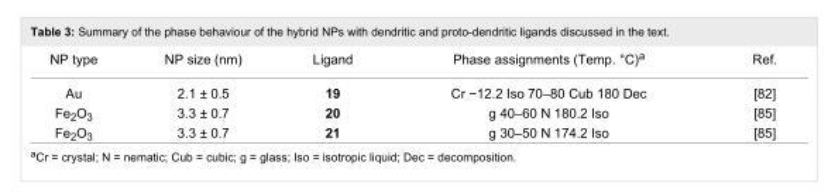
<table><tbody><tr><td>NP type</td><td>NP size (nm)</td><td>Ligand</td><td>Phase assignments (Temp. °C)<sup>a</sup></td><td>Ref.</td></tr><tr><td>Au</td><td>2.1 ± 0.5</td><td>19</td><td>Cr −12.2 Iso 70–80 Cub 180 Dec</td><td>[82]</td></tr><tr><td>Fe<sub>2</sub>O<sub>3</sub></td><td>3.3 ± 0.7</td><td>20</td><td>g 40–60 N 180.2 Iso</td><td>[85]</td></tr><tr><td>Fe<sub>2</sub>O<sub>3</sub></td><td>3.3 ± 0.7</td><td>21</td><td>g 30–50 N 174.2 Iso</td><td>[85]</td></tr></tbody></table>